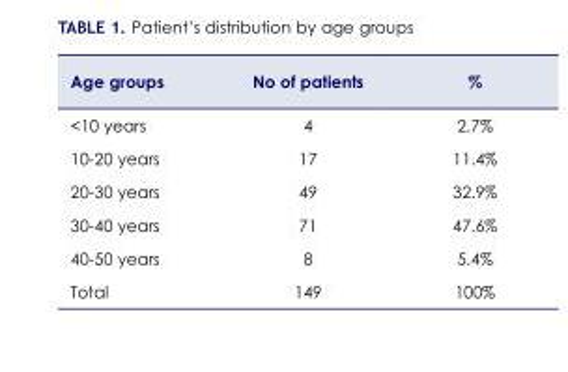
<table><thead><tr><td>Age groups</td><td>No of patients</td><td>%</td></tr></thead><tbody><tr><td>&lt;10 years</td><td>4</td><td>2.7%</td></tr><tr><td>10-20 years</td><td>17</td><td>11.4%</td></tr><tr><td>20-30 years</td><td>49</td><td>32.9%</td></tr><tr><td>30-40 years</td><td>71</td><td>47.6%</td></tr><tr><td>40-50 years</td><td>8</td><td>5.4%</td></tr><tr><td>Total</td><td>149</td><td>100%</td></tr></tbody></table>